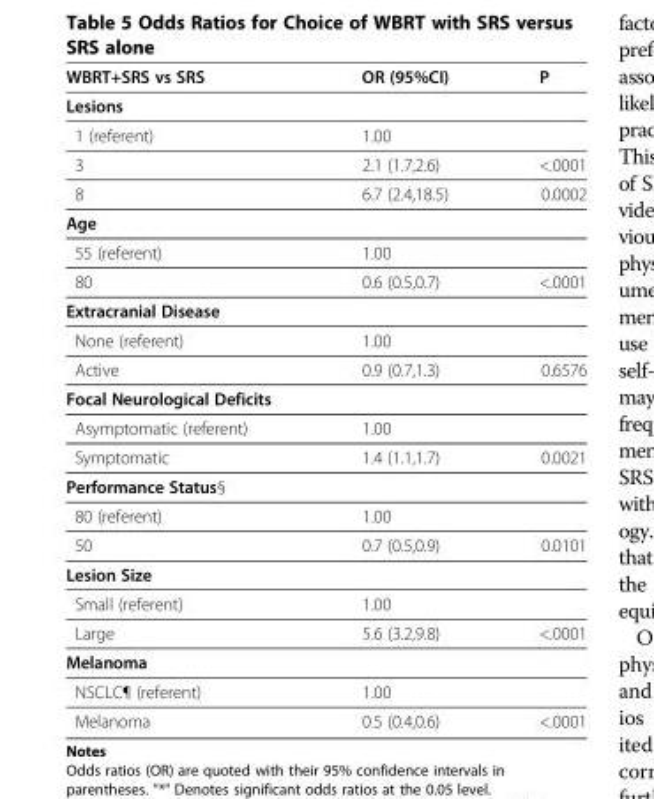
<table><thead><tr><td>WBRT+SRS vs SRS</td><td>OR (95%CI)</td><td>P</td></tr></thead><tbody><tr><td colspan="3">Lesions</td></tr><tr><td>1 (referent)</td><td>1.00</td><td></td></tr><tr><td>3</td><td>2.1 (1.7,2.6)</td><td>&lt;.0001</td></tr><tr><td>8</td><td>6.7 (2.4,18.5)</td><td>0.0002</td></tr><tr><td colspan="3">Age</td></tr><tr><td>55 (referent)</td><td>1.00</td><td></td></tr><tr><td>80</td><td>0.6 (0.5,0.7)</td><td>&lt;.0001</td></tr><tr><td colspan="3">Extracranial Disease</td></tr><tr><td>None (referent)</td><td>1.00</td><td></td></tr><tr><td>Active</td><td>0.9 (0.7,1.3)</td><td>0.6576</td></tr><tr><td colspan="3">Focal Neurological Deficits</td></tr><tr><td>Asymptomatic (referent)</td><td>1.00</td><td></td></tr><tr><td>Symptomatic</td><td>1.4 (1.1,1.7)</td><td>0.0021</td></tr><tr><td colspan="3">Performance Status§</td></tr><tr><td>80 (referent)</td><td>1.00</td><td></td></tr><tr><td>50</td><td>0.7 (0.5,0.9)</td><td>0.0101</td></tr><tr><td colspan="3">Lesion Size</td></tr><tr><td>Small (referent)</td><td>1.00</td><td></td></tr><tr><td>Large</td><td>5.6 (3.2,9.8)</td><td>&lt;.0001</td></tr><tr><td colspan="3">Melanoma</td></tr><tr><td>NSCLC¶ (referent)</td><td>1.00</td><td></td></tr><tr><td>Melanoma</td><td>0.5 (0.4,0.6)</td><td>&lt;.0001</td></tr></tbody></table>